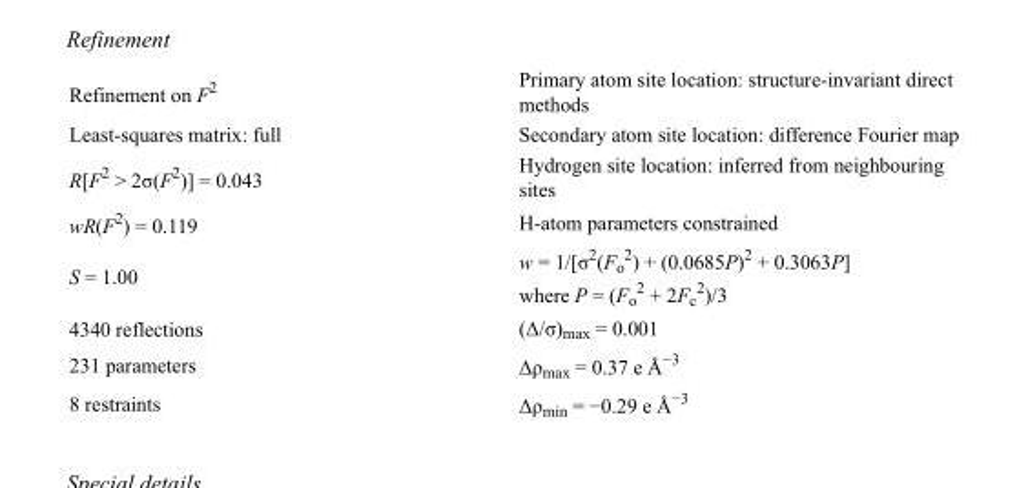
<table><tbody><tr><td>Refinement on F<sup>2</sup></td><td>Primary atom site location: structure-invariant direct methods</td></tr><tr><td>Least-squares matrix: full</td><td>Secondary atom site location: difference Fourier map</td></tr><tr><td>R[F<sup>2</sup> &gt; 2σ(F<sup>2</sup>)] = 0.043</td><td>Hydrogen site location: inferred from neighbouring sites</td></tr><tr><td>wR(F<sup>2</sup>) = 0.119</td><td>H-atom parameters constrained</td></tr><tr><td>S = 1.00</td><td>w = 1/[σ<sup>2</sup>(F<sub>o</sub> <sup>2</sup>) + (0.0685P)<sup>2</sup> + 0.3063P] where P = (F<sub>o</sub> <sup>2</sup> + 2F<sub>c</sub> <sup>2</sup>)/3</td></tr><tr><td>4340 reflections</td><td>(Δ/σ)<sub>max</sub> = 0.001</td></tr><tr><td>231 parameters</td><td>Δρ<sub>max</sub> = 0.37 e Å<sup>−3</sup></td></tr><tr><td>8 restraints</td><td>Δρ<sub>min</sub> = −0.29 e Å<sup>−3</sup></td></tr></tbody></table>